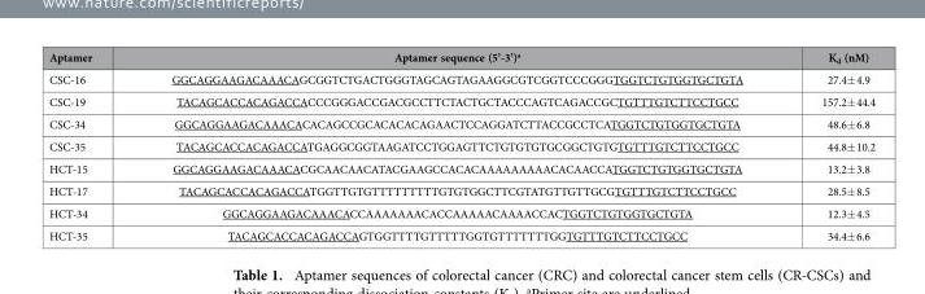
<table><thead><tr><td>Aptamer</td><td>Aptamer sequence (5’-3’)<sup>a</sup></td><td>K<sub>d</sub> (nM)</td></tr></thead><tbody><tr><td>CSC-16</td><td>GGCAGGAAGACAAACAGCGGTCTGACTGGGTAGCAGTAGAAGGCGTCGGTCCCGGGTGGTCTGTGGTGCTGTA</td><td>27.4± 4.9</td></tr><tr><td>CSC-19</td><td>TACAGCACCACAGACCACCCGGGACCGACGCCTTCTACTGCTACCCAGTCAGACCGCTGTTTGTCTTCCTGCC</td><td>157.2± 44.4</td></tr><tr><td>CSC-34</td><td>GGCAGGAAGACAAACACACAGCCGCACACACAGAACTCCAGGATCTTACCGCCTCATGGTCTGTGGTGCTGTA</td><td>48.6± 6.8</td></tr><tr><td>CSC-35</td><td>TACAGCACCACAGACCATGAGGCGGTAAGATCCTGGAGTTCTGTGTGTGCGGCTGTGTGTTTGTCTTCCTGCC</td><td>44.8± 10.2</td></tr><tr><td>HCT-15</td><td>GGCAGGAAGACAAACACGCAACAACATACGAAGCCACACAAAAAAAAACACAACCATGGTCTGTGGTGCTGTA</td><td>13.2± 3.8</td></tr><tr><td>HCT-17</td><td>TACAGCACCACAGACCATGGTTGTGTTTTTTTTTGTGTGGCTTCGTATGTTGTTGCGTGTTTGTCTTCCTGCC</td><td>28.5± 8.5</td></tr><tr><td>HCT-34</td><td>GGCAGGAAGACAAACACCAAAAAAACACCAAAAACAAAACCACTGGTCTGTGGTGCTGTA</td><td>12.3± 4.5</td></tr><tr><td>HCT-35</td><td>TACAGCACCACAGACCAGTGGTTTTGTTTTTGGTGTTTTTTTGGTGTTTGTCTTCCTGCC</td><td>34.4± 6.6</td></tr></tbody></table>